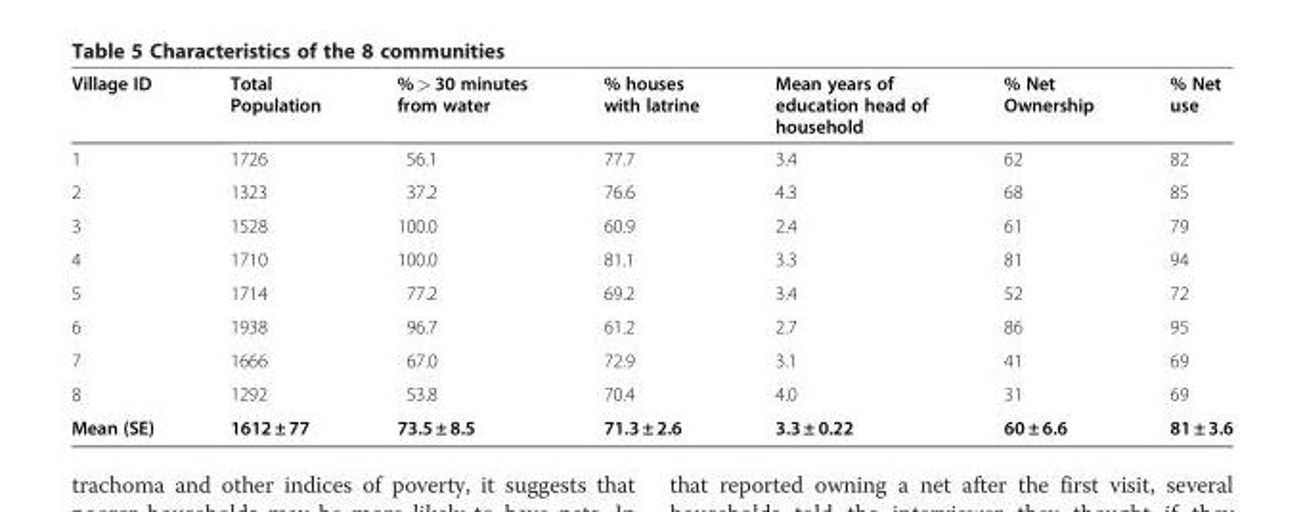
<table><thead><tr><td>Village ID</td><td>Total Population</td><td>% &gt; 30 minutes from water</td><td>% houses with latrine</td><td>Mean years of education head of household</td><td>% Net Ownership</td><td>% Net use</td></tr></thead><tbody><tr><td>1</td><td>1726</td><td>56.1</td><td>77.7</td><td>3.4</td><td>62</td><td>82</td></tr><tr><td>2</td><td>1323</td><td>37.2</td><td>76.6</td><td>4.3</td><td>68</td><td>85</td></tr><tr><td>3</td><td>1528</td><td>100.0</td><td>60.9</td><td>2.4</td><td>61</td><td>79</td></tr><tr><td>4</td><td>1710</td><td>100.0</td><td>81.1</td><td>3.3</td><td>81</td><td>94</td></tr><tr><td>5</td><td>1714</td><td>77.2</td><td>69.2</td><td>3.4</td><td>52</td><td>72</td></tr><tr><td>6</td><td>1938</td><td>96.7</td><td>61.2</td><td>2.7</td><td>86</td><td>95</td></tr><tr><td>7</td><td>1666</td><td>67.0</td><td>72.9</td><td>3.1</td><td>41</td><td>69</td></tr><tr><td>8</td><td>1292</td><td>53.8</td><td>70.4</td><td>4.0</td><td>31</td><td>69</td></tr><tr><td>Mean (SE)</td><td>1612 ± 77</td><td>73.5 ± 8.5</td><td>71.3 ± 2.6</td><td>3.3 ± 0.22</td><td>60 ± 6.6</td><td>81 ± 3.6</td></tr></tbody></table>